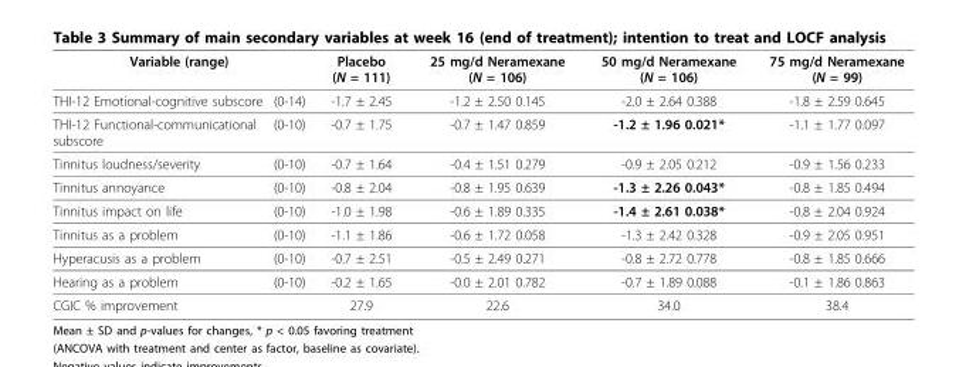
<table><thead><tr><td colspan="2">Variable (range)</td><td rowspan="2">Placebo (N = 111) -1.7 ± 2.45</td><td rowspan="2">25 mg/d Neramexane (N = 106) -1.2 ± 2.50 0.145</td><td rowspan="2">50 mg/d Neramexane (N = 106) -2.0 ± 2.64 0.388</td><td rowspan="2">75 mg/d Neramexane (N = 99) -1.8 ± 2.59 0.645</td></tr><tr><td>THI-12 Emotional-cognitive subscore</td><td>(0-14)</td></tr></thead><tbody><tr><td>THI-12 Functional-communicational subscore</td><td>(0-10)</td><td>-0.7 ± 1.75</td><td>-0.7 ± 1.47 0.859</td><td>-1.2 ± 1.96 0.021*</td><td>-1.1 ± 1.77 0.097</td></tr><tr><td>Tinnitus loudness/severity</td><td>(0-10)</td><td>-0.7 ± 1.64</td><td>-0.4 ± 1.51 0.279</td><td>-0.9 ± 2.05 0.212</td><td>-0.9 ± 1.56 0.233</td></tr><tr><td>Tinnitus annoyance</td><td>(0-10)</td><td>-0.8 ± 2.04</td><td>-0.8 ± 1.95 0.639</td><td>-1.3 ± 2.26 0.043*</td><td>-0.8 ± 1.85 0.494</td></tr><tr><td>Tinnitus impact on life</td><td>(0-10)</td><td>-1.0 ± 1.98</td><td>-0.6 ± 1.89 0.335</td><td>-1.4 ± 2.61 0.038*</td><td>-0.8 ± 2.04 0.924</td></tr><tr><td>Tinnitus as a problem</td><td>(0-10)</td><td>-1.1 ± 1.86</td><td>-0.6 ± 1.72 0.058</td><td>-1.3 ± 2.42 0.328</td><td>-0.9 ± 2.05 0.951</td></tr><tr><td>Hyperacusis as a problem</td><td>(0-10)</td><td>-0.7 ± 2.51</td><td>-0.5 ± 2.49 0.271</td><td>-0.8 ± 2.72 0.778</td><td>-0.8 ± 1.85 0.666</td></tr><tr><td>Hearing as a problem</td><td>(0-10)</td><td>-0.2 ± 1.65</td><td>-0.0 ± 2.01 0.782</td><td>-0.7 ± 1.89 0.088</td><td>-0.1 ± 1.86 0.863</td></tr><tr><td colspan="2">CGIC % improvement</td><td>27.9</td><td>22.6</td><td>34.0</td><td>38.4</td></tr></tbody></table>